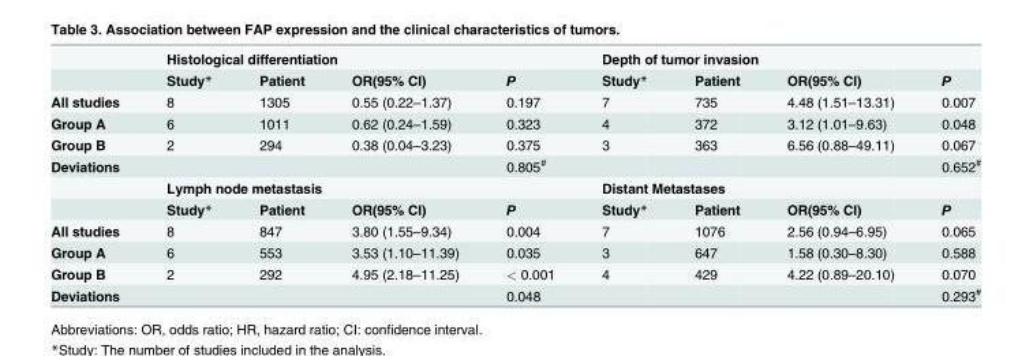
<table><thead><tr><td rowspan="2"></td><td colspan="4">Histological differentiation</td><td colspan="4">Depth of tumor invasion</td></tr><tr><td>Study*</td><td>Patient</td><td>OR(95% CI)</td><td>P</td><td>Study*</td><td>Patient</td><td>OR(95% CI)</td><td>P</td></tr></thead><tbody><tr><td>All studies</td><td>8</td><td>1305</td><td>0.55 (0.22–1.37)</td><td>0.197</td><td>7</td><td>735</td><td>4.48 (1.51–13.31)</td><td>0.007</td></tr><tr><td>Group A</td><td>6</td><td>1011</td><td>0.62 (0.24–1.59)</td><td>0.323</td><td>4</td><td>372</td><td>3.12 (1.01–9.63)</td><td>0.048</td></tr><tr><td>Group B</td><td>2</td><td>294</td><td>0.38 (0.04–3.23)</td><td>0.375</td><td>3</td><td>363</td><td>6.56 (0.88–49.11)</td><td>0.067</td></tr><tr><td rowspan="3">Deviations</td><td></td><td></td><td></td><td>0.805<sup>#</sup></td><td></td><td></td><td></td><td>0.652<sup>#</sup></td></tr><tr><td colspan="4">Lymph node metastasis</td><td colspan="4">Distant Metastases</td></tr><tr><td>Study*</td><td>Patient</td><td>OR(95% CI)</td><td>P</td><td>Study*</td><td>Patient</td><td>OR(95% CI)</td><td>P</td></tr><tr><td>All studies</td><td>8</td><td>847</td><td>3.80 (1.55–9.34)</td><td>0.004</td><td>7</td><td>1076</td><td>2.56 (0.94–6.95)</td><td>0.065</td></tr><tr><td>Group A</td><td>6</td><td>553</td><td>3.53 (1.10–11.39)</td><td>0.035</td><td>3</td><td>647</td><td>1.58 (0.30–8.30)</td><td>0.588</td></tr><tr><td>Group B</td><td>2</td><td>292</td><td>4.95 (2.18–11.25)</td><td>&lt; 0.001</td><td>4</td><td>429</td><td>4.22 (0.89–20.10)</td><td>0.070</td></tr><tr><td>Deviations</td><td></td><td></td><td></td><td>0.048</td><td></td><td></td><td></td><td>0.293<sup>#</sup></td></tr></tbody></table>